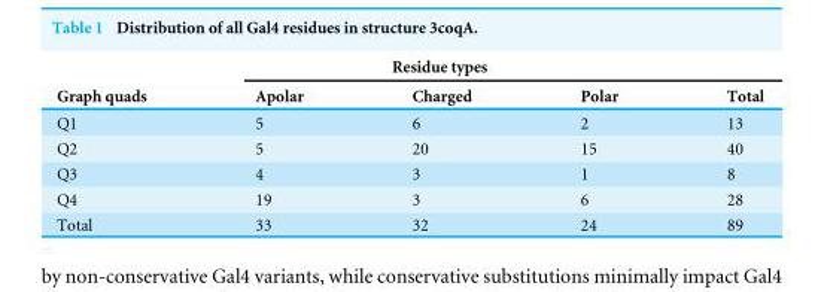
<table><thead><tr><td rowspan="2">Graph quads</td><td colspan="3">Residue types</td><td rowspan="2">Total</td></tr><tr><td>Apolar</td><td>Charged</td><td>Polar</td></tr></thead><tbody><tr><td>Q1</td><td>5</td><td>6</td><td>2</td><td>13</td></tr><tr><td>Q2</td><td>5</td><td>20</td><td>15</td><td>40</td></tr><tr><td>Q3</td><td>4</td><td>3</td><td>1</td><td>8</td></tr><tr><td>Q4</td><td>19</td><td>3</td><td>6</td><td>28</td></tr><tr><td>Total</td><td>33</td><td>32</td><td>24</td><td>89</td></tr></tbody></table>